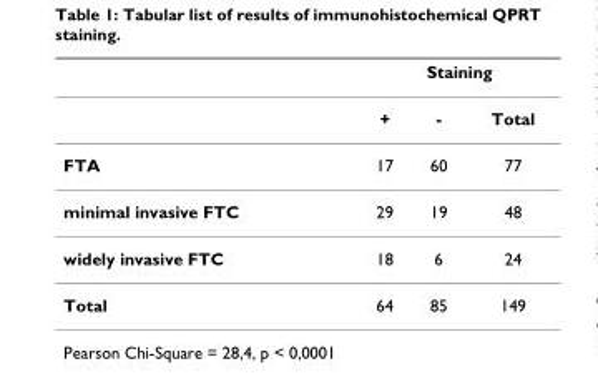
<table><thead><tr><td rowspan="2"></td><td colspan="3">Staining</td></tr><tr><td>+</td><td>-</td><td>Total</td></tr></thead><tbody><tr><td>FTA</td><td>17</td><td>60</td><td>77</td></tr><tr><td>minimal invasive FTC</td><td>29</td><td>19</td><td>48</td></tr><tr><td>widely invasive FTC</td><td>18</td><td>6</td><td>24</td></tr><tr><td>Total</td><td>64</td><td>85</td><td>149</td></tr></tbody></table>